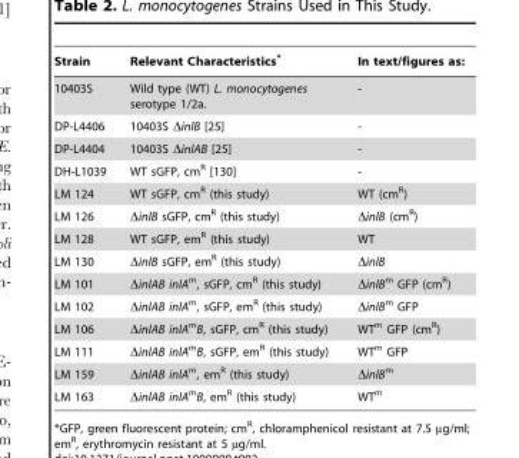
<table><thead><tr><td>Strain</td><td>Relevant Characteristics*</td><td>In text/figures as:</td></tr></thead><tbody><tr><td>10403S</td><td>Wild type (WT) L. monocytogenes serotype 1/2a.</td><td>-</td></tr><tr><td>DP-L4406</td><td>10403S ΔinlB [25]</td><td>-</td></tr><tr><td>DP-L4404</td><td>10403S ΔinlAB [25]</td><td>-</td></tr><tr><td>DH-L1039</td><td>WT sGFP, cm<sup>R</sup> [130]</td><td>-</td></tr><tr><td>LM 124</td><td>WT sGFP, cm<sup>R</sup> (this study)</td><td>WT (cm<sup>R</sup>)</td></tr><tr><td>LM 126</td><td>ΔinlB sGFP, cm<sup>R</sup> (this study)</td><td>ΔinlB (cm<sup>R</sup>)</td></tr><tr><td>LM 128</td><td>WT sGFP, em<sup>R</sup> (this study)</td><td>WT</td></tr><tr><td>LM 130</td><td>ΔinlB sGFP, em<sup>R</sup> (this study)</td><td>ΔinlB</td></tr><tr><td>LM 101</td><td>ΔinlAB inlA<sup>m</sup>, sGFP, cm<sup>R</sup> (this study)</td><td>ΔinlB<sup>m</sup> GFP (cm<sup>R</sup>)</td></tr><tr><td>LM 102</td><td>ΔinlAB inlA<sup>m</sup>, sGFP, em<sup>R</sup> (this study)</td><td>ΔinlB<sup>m</sup> GFP</td></tr><tr><td>LM 106</td><td>ΔinlAB inlA<sup>m</sup>B, sGFP, cm<sup>R</sup> (this study)</td><td>WT<sup>m</sup> GFP (cm<sup>R</sup>)</td></tr><tr><td>LM 111</td><td>ΔinlAB inlA<sup>m</sup>B, sGFP, em<sup>R</sup> (this study)</td><td>WT<sup>m</sup> GFP</td></tr><tr><td>LM 159</td><td>ΔinlAB inlA<sup>m</sup>, em<sup>R</sup> (this study)</td><td>ΔinlB<sup>m</sup></td></tr><tr><td>LM 163</td><td>ΔinlAB inlA<sup>m</sup>B, em<sup>R</sup> (this study)</td><td>WT<sup>m</sup></td></tr></tbody></table>